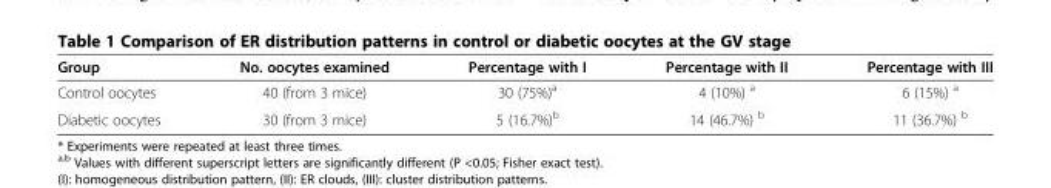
<table><thead><tr><td>Group</td><td>No. oocytes examined</td><td>Percentage with I</td><td>Percentage with II</td><td>Percentage with III</td></tr></thead><tbody><tr><td>Control oocytes</td><td>40 (from 3 mice)</td><td>30 (75%)<sup>a</sup></td><td>4 (10%) <sup>a</sup></td><td>6 (15%) <sup>a</sup></td></tr><tr><td>Diabetic oocytes</td><td>30 (from 3 mice)</td><td>5 (16.7%)<sup>b</sup></td><td>14 (46.7%) <sup>b</sup></td><td>11 (36.7%) <sup>b</sup></td></tr></tbody></table>